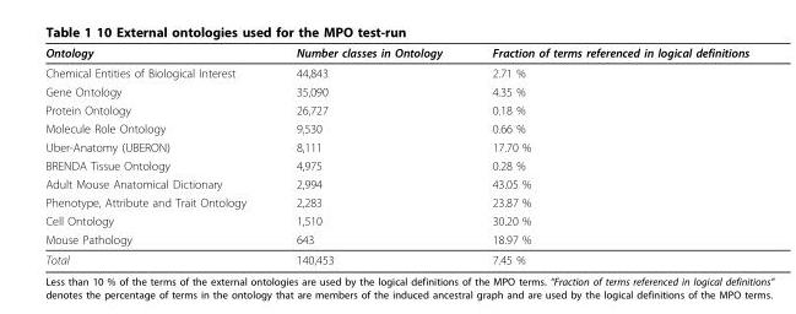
<table><thead><tr><td>Ontology</td><td>Number classes in Ontology</td><td>Fraction of terms referenced in logical definitions</td></tr></thead><tbody><tr><td>Chemical Entities of Biological Interest</td><td>44,843</td><td>2.71 %</td></tr><tr><td>Gene Ontology</td><td>35,090</td><td>4.35 %</td></tr><tr><td>Protein Ontology</td><td>26,727</td><td>0.18 %</td></tr><tr><td>Molecule Role Ontology</td><td>9,530</td><td>0.66 %</td></tr><tr><td>Uber-Anatomy (UBERON)</td><td>8,111</td><td>17.70 %</td></tr><tr><td>BRENDA Tissue Ontology</td><td>4,975</td><td>0.28 %</td></tr><tr><td>Adult Mouse Anatomical Dictionary</td><td>2,994</td><td>43.05 %</td></tr><tr><td>Phenotype, Attribute and Trait Ontology</td><td>2,283</td><td>23.87 %</td></tr><tr><td>Cell Ontology</td><td>1,510</td><td>30.20 %</td></tr><tr><td>Mouse Pathology</td><td>643</td><td>18.97 %</td></tr><tr><td>Total</td><td>140,453</td><td>7.45 %</td></tr></tbody></table>